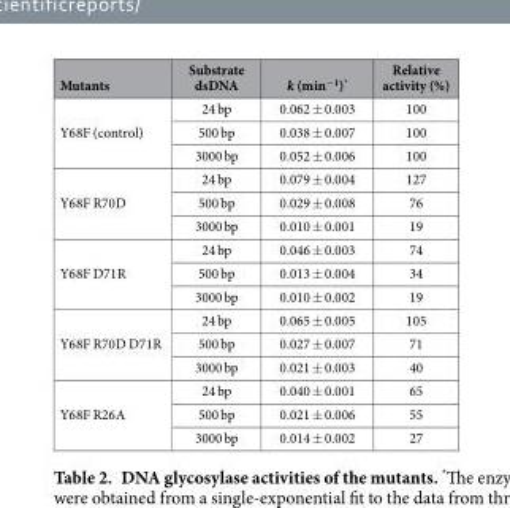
<table><thead><tr><td>Mutants</td><td>Substrate dsDNA</td><td>k (min<sup>−1</sup>)*</td><td>Relative activity (%)</td></tr></thead><tbody><tr><td rowspan="3">Y68F (control)</td><td>24 bp</td><td>0.062 ± 0.003</td><td>100</td></tr><tr><td>500 bp</td><td>0.038 ± 0.007</td><td>100</td></tr><tr><td>3000 bp</td><td>0.052 ± 0.006</td><td>100</td></tr><tr><td rowspan="3">Y68F R70D</td><td>24 bp</td><td>0.079 ± 0.004</td><td>127</td></tr><tr><td>500 bp</td><td>0.029 ± 0.008</td><td>76</td></tr><tr><td>3000 bp</td><td>0.010 ± 0.001</td><td>19</td></tr><tr><td rowspan="3">Y68F D71R</td><td>24 bp</td><td>0.046 ± 0.003</td><td>74</td></tr><tr><td>500 bp</td><td>0.013 ± 0.004</td><td>34</td></tr><tr><td>3000 bp</td><td>0.010 ± 0.002</td><td>19</td></tr><tr><td rowspan="3">Y68F R70D D71R</td><td>24 bp</td><td>0.065 ± 0.005</td><td>105</td></tr><tr><td>500 bp</td><td>0.027 ± 0.007</td><td>71</td></tr><tr><td>3000 bp</td><td>0.021 ± 0.003</td><td>40</td></tr><tr><td rowspan="3">Y68F R26A</td><td>24 bp</td><td>0.040 ± 0.001</td><td>65</td></tr><tr><td>500 bp</td><td>0.021 ± 0.006</td><td>55</td></tr><tr><td>3000 bp</td><td>0.014 ± 0.002</td><td>27</td></tr></tbody></table>